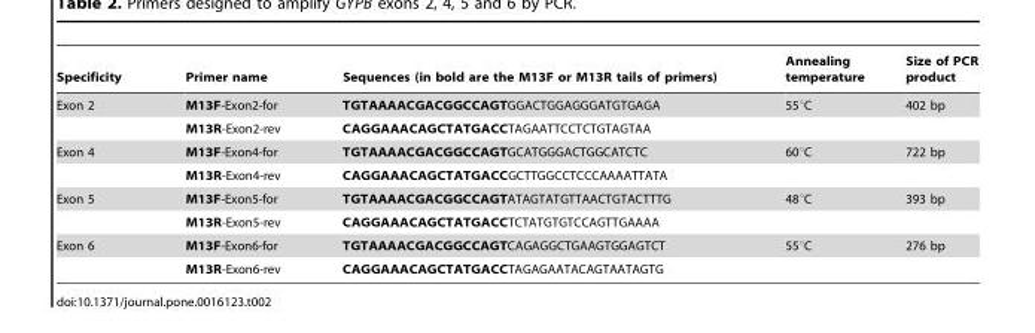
<table><thead><tr><td>Specificity</td><td>Primer name</td><td>Sequences (in bold are the M13F or M13R tails of primers)</td><td>Annealing temperature</td><td>Size of PCR product</td></tr></thead><tbody><tr><td rowspan="2">Exon 2</td><td>M13F-Exon2-for</td><td>TGTAAAACGACGGCCAGTGGACTGGAGGGATGTGAGA</td><td>55°C</td><td>402 bp</td></tr><tr><td>M13R-Exon2-rev</td><td>CAGGAAACAGCTATGACCTAGAATTCCTCTGTAGTAA</td><td></td><td></td></tr><tr><td rowspan="2">Exon 4</td><td>M13F-Exon4-for</td><td>TGTAAAACGACGGCCAGTGCATGGGACTGGCATCTC</td><td>60°C</td><td>722 bp</td></tr><tr><td>M13R-Exon4-rev</td><td>CAGGAAACAGCTATGACCGCTTGGCCTCCCAAAATTATA</td><td></td><td></td></tr><tr><td rowspan="2">Exon 5</td><td>M13F-Exon5-for</td><td>TGTAAAACGACGGCCAGTATAGTATGTTAACTGTACTTTG</td><td>48°C</td><td>393 bp</td></tr><tr><td>M13R-Exon5-rev</td><td>CAGGAAACAGCTATGACCTCTATGTGTCCAGTTGAAAA</td><td></td><td></td></tr><tr><td rowspan="2">Exon 6</td><td>M13F-Exon6-for</td><td>TGTAAAACGACGGCCAGTCAGAGGCTGAAGTGGAGTCT</td><td>55°C</td><td>276 bp</td></tr><tr><td>M13R-Exon6-rev</td><td>CAGGAAACAGCTATGACCTAGAGAATACAGTAATAGTG</td><td></td><td></td></tr></tbody></table>